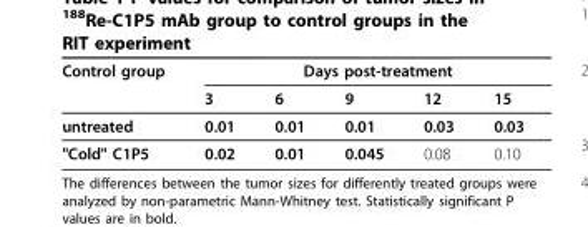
<table><thead><tr><td rowspan="2">Control group</td><td colspan="5">Days post-treatment</td></tr><tr><td>3</td><td>6</td><td>9</td><td>12</td><td>15</td></tr></thead><tbody><tr><td>untreated</td><td>0.01</td><td>0.01</td><td>0.01</td><td>0.03</td><td>0.03</td></tr><tr><td>&quot;Cold&quot; C1P5</td><td>0.02</td><td>0.01</td><td>0.045</td><td>0.08</td><td>0.10</td></tr></tbody></table>